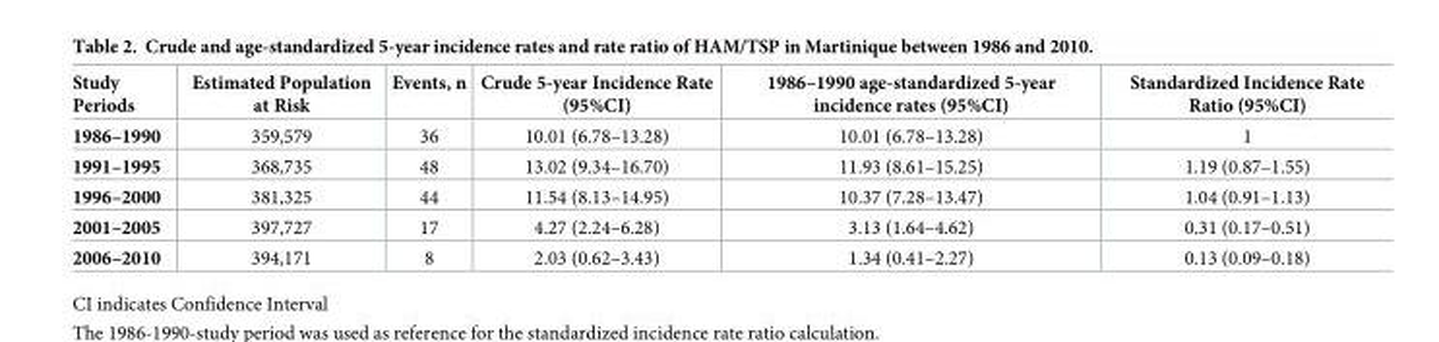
<table><thead><tr><td>Study Periods</td><td>Estimated Population at Risk</td><td>Events, n</td><td>Crude 5-year Incidence Rate (95%CI)</td><td>1986–1990 age-standardized 5-year incidence rates (95%CI)</td><td>Standardized Incidence Rate Ratio (95%CI)</td></tr></thead><tbody><tr><td>1986–1990</td><td>359,579</td><td>36</td><td>10.01 (6.78–13.28)</td><td>10.01 (6.78–13.28)</td><td>1</td></tr><tr><td>1991–1995</td><td>368,735</td><td>48</td><td>13.02 (9.34–16.70)</td><td>11.93 (8.61–15.25)</td><td>1.19 (0.87–1.55)</td></tr><tr><td>1996–2000</td><td>381,325</td><td>44</td><td>11.54 (8.13–14.95)</td><td>10.37 (7.28–13.47)</td><td>1.04 (0.91–1.13)</td></tr><tr><td>2001–2005</td><td>397,727</td><td>17</td><td>4.27 (2.24–6.28)</td><td>3.13 (1.64–4.62)</td><td>0.31 (0.17–0.51)</td></tr><tr><td>2006–2010</td><td>394,171</td><td>8</td><td>2.03 (0.62–3.43)</td><td>1.34 (0.41–2.27)</td><td>0.13 (0.09–0.18)</td></tr></tbody></table>